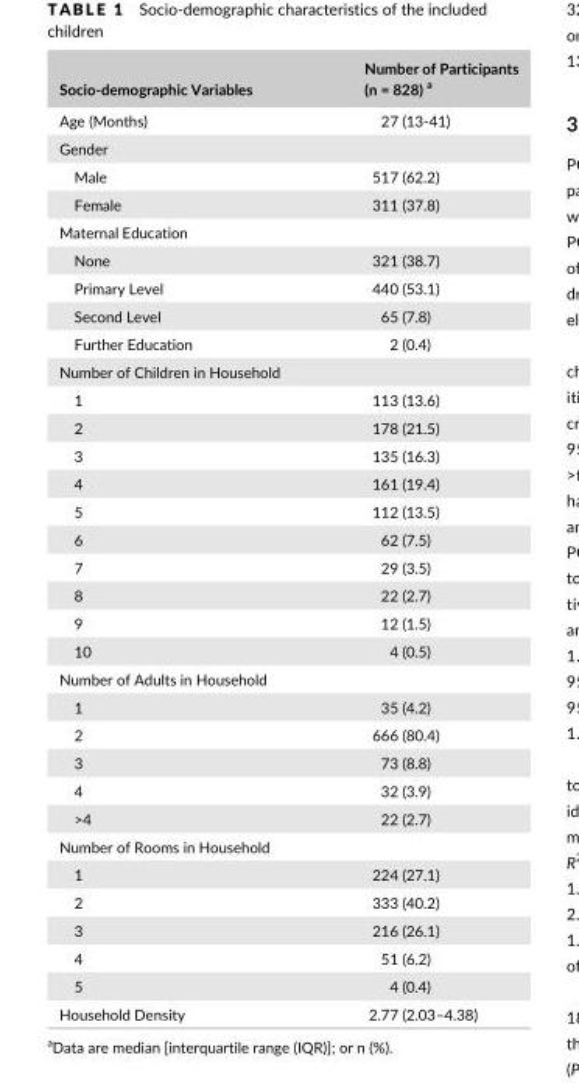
<table><thead><tr><td>Socio- demographic Variables</td><td>Number of Participants (n = 828) a</td></tr></thead><tbody><tr><td>Age (Months)</td><td>27 (13- 41)</td></tr><tr><td colspan="2">Gender</td></tr><tr><td>Male</td><td>517 (62.2)</td></tr><tr><td>Female</td><td>311 (37.8)</td></tr><tr><td colspan="2">Maternal Education</td></tr><tr><td>None</td><td>321 (38.7)</td></tr><tr><td>Primary Level</td><td>440 (53.1)</td></tr><tr><td>Second Level</td><td>65 (7.8)</td></tr><tr><td>Further Education</td><td>2 (0.4)</td></tr><tr><td colspan="2">Number of Children in Household</td></tr><tr><td>1</td><td>113 (13.6)</td></tr><tr><td>2</td><td>178 (21.5)</td></tr><tr><td>3</td><td>135 (16.3)</td></tr><tr><td>4</td><td>161 (19.4)</td></tr><tr><td>5</td><td>112 (13.5)</td></tr><tr><td>6</td><td>62 (7.5)</td></tr><tr><td>7</td><td>29 (3.5)</td></tr><tr><td>8</td><td>22 (2.7)</td></tr><tr><td>9</td><td>12 (1.5)</td></tr><tr><td>10</td><td>4 (0.5)</td></tr><tr><td colspan="2">Number of Adults in Household</td></tr><tr><td>1</td><td>35 (4.2)</td></tr><tr><td>2</td><td>666 (80.4)</td></tr><tr><td>3</td><td>73 (8.8)</td></tr><tr><td>4</td><td>32 (3.9)</td></tr><tr><td>&gt;4</td><td>22 (2.7)</td></tr><tr><td colspan="2">Number of Rooms in Household</td></tr><tr><td>1</td><td>224 (27.1)</td></tr><tr><td>2</td><td>333 (40.2)</td></tr><tr><td>3</td><td>216 (26.1)</td></tr><tr><td>4</td><td>51 (6.2)</td></tr><tr><td>5</td><td>4 (0.4)</td></tr><tr><td>Household Density</td><td>2.77 (2.03–4.38)</td></tr></tbody></table>